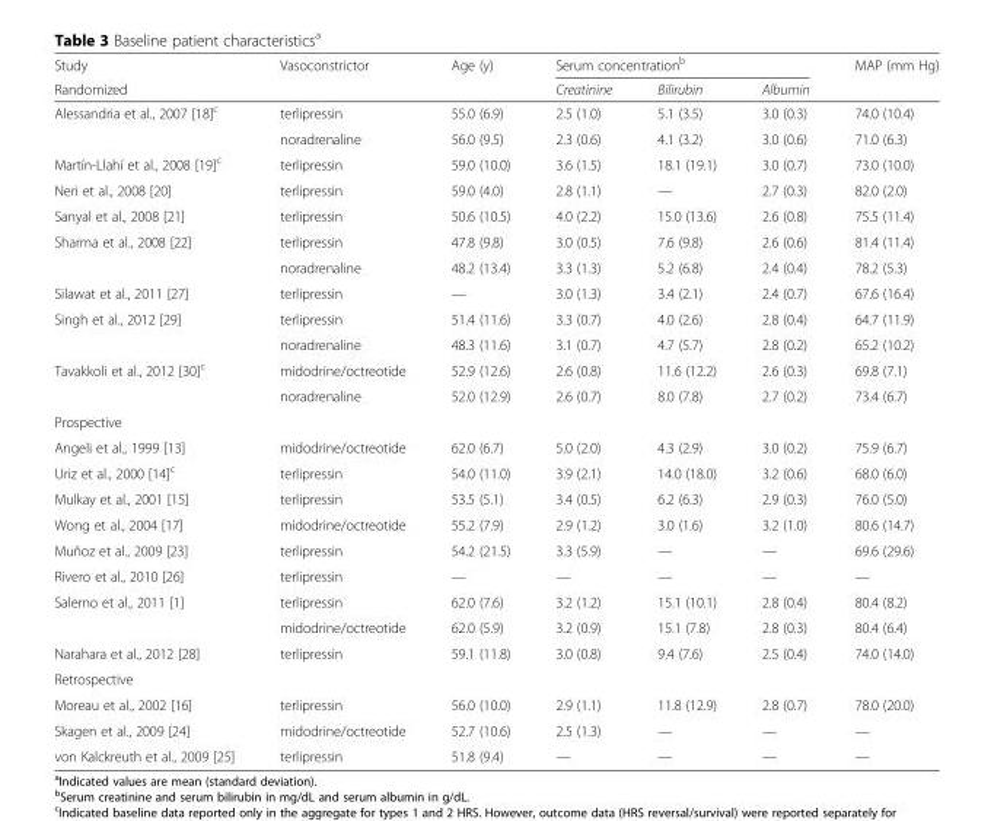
<table><thead><tr><td rowspan="2">Study Randomized</td><td rowspan="2">Vasoconstrictor</td><td rowspan="2">Age (y)</td><td colspan="3">Serum concentration<sup>b</sup></td><td rowspan="2">MAP (mm Hg)</td></tr><tr><td>Creatinine</td><td>Bilirubin</td><td>Albumin</td></tr></thead><tbody><tr><td rowspan="2">Alessandria et al., 2007 [18]<sup>c</sup></td><td>terlipressin</td><td>55.0 (6.9)</td><td>2.5 (1.0)</td><td>5.1 (3.5)</td><td>3.0 (0.3)</td><td>74.0 (10.4)</td></tr><tr><td>noradrenaline</td><td>56.0 (9.5)</td><td>2.3 (0.6)</td><td>4.1 (3.2)</td><td>3.0 (0.6)</td><td>71.0 (6.3)</td></tr><tr><td>Martín-Llahí et al., 2008 [19]<sup>c</sup></td><td>terlipressin</td><td>59.0 (10.0)</td><td>3.6 (1.5)</td><td>18.1 (19.1)</td><td>3.0 (0.7)</td><td>73.0 (10.0)</td></tr><tr><td>Neri et al., 2008 [20]</td><td>terlipressin</td><td>59.0 (4.0)</td><td>2.8 (1.1)</td><td>—</td><td>2.7 (0.3)</td><td>82.0 (2.0)</td></tr><tr><td>Sanyal et al., 2008 [21]</td><td>terlipressin</td><td>50.6 (10.5)</td><td>4.0 (2.2)</td><td>15.0 (13.6)</td><td>2.6 (0.8)</td><td>75.5 (11.4)</td></tr><tr><td rowspan="2">Sharma et al., 2008 [22]</td><td>terlipressin</td><td>47.8 (9.8)</td><td>3.0 (0.5)</td><td>7.6 (9.8)</td><td>2.6 (0.6)</td><td>81.4 (11.4)</td></tr><tr><td>noradrenaline</td><td>48.2 (13.4)</td><td>3.3 (1.3)</td><td>5.2 (6.8)</td><td>2.4 (0.4)</td><td>78.2 (5.3)</td></tr><tr><td>Silawat et al., 2011 [27]</td><td>terlipressin</td><td>—</td><td>3.0 (1.3)</td><td>3.4 (2.1)</td><td>2.4 (0.7)</td><td>67.6 (16.4)</td></tr><tr><td rowspan="2">Singh et al., 2012 [29]</td><td>terlipressin</td><td>51.4 (11.6)</td><td>3.3 (0.7)</td><td>4.0 (2.6)</td><td>2.8 (0.4)</td><td>64.7 (11.9)</td></tr><tr><td>noradrenaline</td><td>48.3 (11.6)</td><td>3.1 (0.7)</td><td>4.7 (5.7)</td><td>2.8 (0.2)</td><td>65.2 (10.2)</td></tr><tr><td rowspan="2">Tavakkoli et al., 2012 [30]<sup>c</sup></td><td>midodrine/octreotide</td><td>52.9 (12.6)</td><td>2.6 (0.8)</td><td>11.6 (12.2)</td><td>2.6 (0.3)</td><td>69.8 (7.1)</td></tr><tr><td>noradrenaline</td><td>52.0 (12.9)</td><td>2.6 (0.7)</td><td>8.0 (7.8)</td><td>2.7 (0.2)</td><td>73.4 (6.7)</td></tr><tr><td colspan="7">Prospective</td></tr><tr><td>Angeli et al., 1999 [13]</td><td>midodrine/octreotide</td><td>62.0 (6.7)</td><td>5.0 (2.0)</td><td>4.3 (2.9)</td><td>3.0 (0.2)</td><td>75.9 (6.7)</td></tr><tr><td>Uriz et al., 2000 [14]<sup>c</sup></td><td>terlipressin</td><td>54.0 (11.0)</td><td>3.9 (2.1)</td><td>14.0 (18.0)</td><td>3.2 (0.6)</td><td>68.0 (6.0)</td></tr><tr><td>Mulkay et al., 2001 [15]</td><td>terlipressin</td><td>53.5 (5.1)</td><td>3.4 (0.5)</td><td>6.2 (6.3)</td><td>2.9 (0.3)</td><td>76.0 (5.0)</td></tr><tr><td>Wong et al., 2004 [17]</td><td>midodrine/octreotide</td><td>55.2 (7.9)</td><td>2.9 (1.2)</td><td>3.0 (1.6)</td><td>3.2 (1.0)</td><td>80.6 (14.7)</td></tr><tr><td>Muñoz et al., 2009 [23]</td><td>terlipressin</td><td>54.2 (21.5)</td><td>3.3 (5.9)</td><td>—</td><td>—</td><td>69.6 (29.6)</td></tr><tr><td>Rivero et al., 2010 [26]</td><td>terlipressin</td><td>—</td><td>—</td><td>—</td><td>—</td><td>—</td></tr><tr><td rowspan="2">Salerno et al., 2011 [1]</td><td>terlipressin</td><td>62.0 (7.6)</td><td>3.2 (1.2)</td><td>15.1 (10.1)</td><td>2.8 (0.4)</td><td>80.4 (8.2)</td></tr><tr><td>midodrine/octreotide</td><td>62.0 (5.9)</td><td>3.2 (0.9)</td><td>15.1 (7.8)</td><td>2.8 (0.3)</td><td>80.4 (6.4)</td></tr><tr><td>Narahara et al., 2012 [28]</td><td>terlipressin</td><td>59.1 (11.8)</td><td>3.0 (0.8)</td><td>9.4 (7.6)</td><td>2.5 (0.4)</td><td>74.0 (14.0)</td></tr><tr><td colspan="7">Retrospective</td></tr><tr><td>Moreau et al., 2002 [16]</td><td>terlipressin</td><td>56.0 (10.0)</td><td>2.9 (1.1)</td><td>11.8 (12.9)</td><td>2.8 (0.7)</td><td>78.0 (20.0)</td></tr><tr><td>Skagen et al., 2009 [24]</td><td>midodrine/octreotide</td><td>52.7 (10.6)</td><td>2.5 (1.3)</td><td>—</td><td>—</td><td>—</td></tr><tr><td>von Kalckreuth et al., 2009 [25]</td><td>terlipressin</td><td>51.8 (9.4)</td><td>—</td><td>—</td><td>—</td><td>—</td></tr></tbody></table>